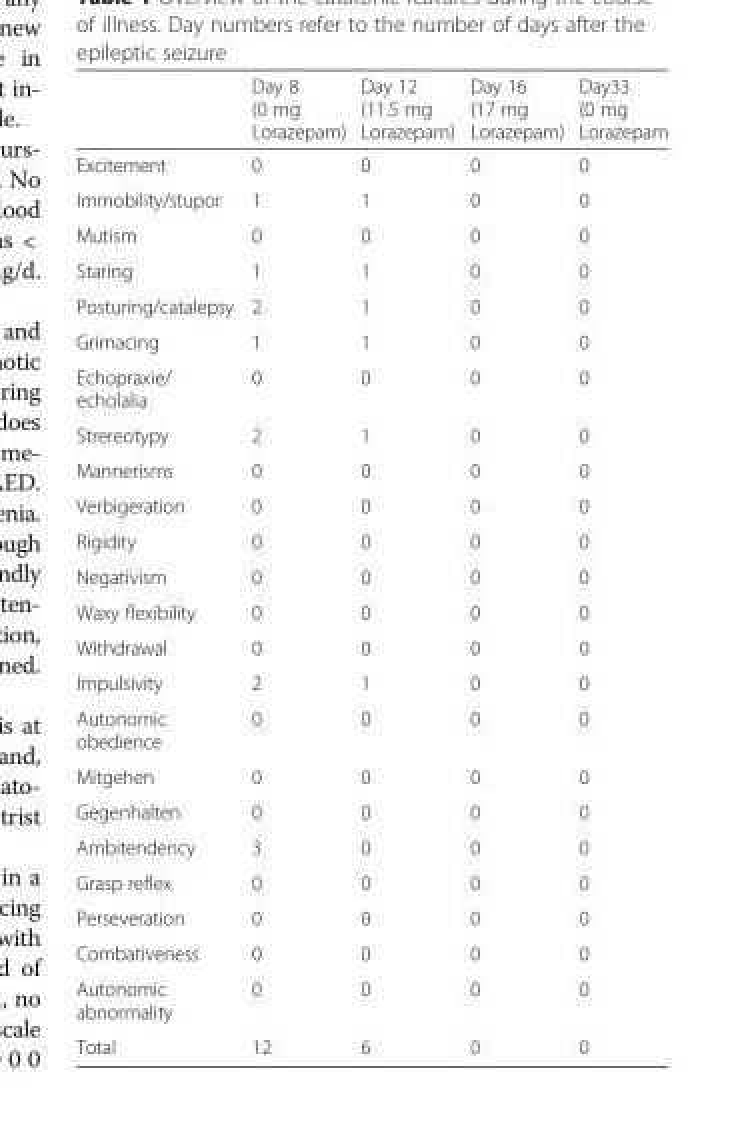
<table><thead><tr><td></td><td>Day 8 (0 mg Lorazepam)</td><td>Day 12 (11.5 mg Lorazepam)</td><td>Day 16 (17 mg Lorazepam)</td><td>Day33 (0 mg Lorazepam</td></tr></thead><tbody><tr><td>Excitement</td><td>0</td><td>0</td><td>0</td><td>0</td></tr><tr><td>Immobility/stupor</td><td>1</td><td>1</td><td>0</td><td>0</td></tr><tr><td>Mutism</td><td>0</td><td>0</td><td>0</td><td>0</td></tr><tr><td>Staring</td><td>1</td><td>1</td><td>0</td><td>0</td></tr><tr><td>Posturing/catalepsy</td><td>2</td><td>1</td><td>0</td><td>0</td></tr><tr><td>Grimacing</td><td>1</td><td>1</td><td>0</td><td>0</td></tr><tr><td>Echopraxie/ echolalia</td><td>0</td><td>0</td><td>0</td><td>0</td></tr><tr><td>Strereotypy</td><td>2</td><td>1</td><td>0</td><td>0</td></tr><tr><td>Mannerisms</td><td>0</td><td>0</td><td>0</td><td>0</td></tr><tr><td>Verbigeration</td><td>0</td><td>0</td><td>0</td><td>0</td></tr><tr><td>Rigidity</td><td>0</td><td>0</td><td>0</td><td>0</td></tr><tr><td>Negativism</td><td>0</td><td>0</td><td>0</td><td>0</td></tr><tr><td>Waxy flexibility</td><td>0</td><td>0</td><td>0</td><td>0</td></tr><tr><td>Withdrawal</td><td>0</td><td>0</td><td>0</td><td>0</td></tr><tr><td>Impulsivity</td><td>2</td><td>1</td><td>0</td><td>0</td></tr><tr><td>Autonomic obedience</td><td>0</td><td>0</td><td>0</td><td>0</td></tr><tr><td>Mitgehen</td><td>0</td><td>0</td><td>0</td><td>0</td></tr><tr><td>Gegenhalten</td><td>0</td><td>0</td><td>0</td><td>0</td></tr><tr><td>Ambitendency</td><td>3</td><td>0</td><td>0</td><td>0</td></tr><tr><td>Grasp reflex</td><td>0</td><td>0</td><td>0</td><td>0</td></tr><tr><td>Perseveration</td><td>0</td><td>0</td><td>0</td><td>0</td></tr><tr><td>Combativeness</td><td>0</td><td>0</td><td>0</td><td>0</td></tr><tr><td>Autonomic abnormality</td><td>0</td><td>0</td><td>0</td><td>0</td></tr><tr><td>Total</td><td>12</td><td>6</td><td>0</td><td>0</td></tr></tbody></table>